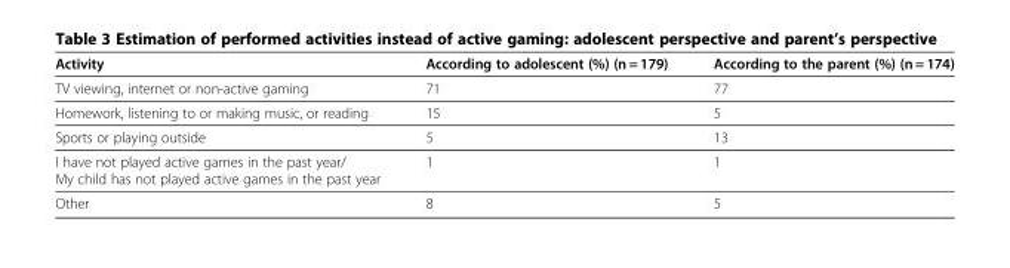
<table><thead><tr><td>Activity</td><td>According to adolescent (%) (n = 179)</td><td>According to the parent (%) (n = 174)</td></tr></thead><tbody><tr><td>TV viewing, internet or non-active gaming</td><td>71</td><td>77</td></tr><tr><td>Homework, listening to or making music, or reading</td><td>15</td><td>5</td></tr><tr><td>Sports or playing outside</td><td>5</td><td>13</td></tr><tr><td>I have not played active games in the past year/ My child has not played active games in the past year</td><td>1</td><td>1</td></tr><tr><td>Other</td><td>8</td><td>5</td></tr></tbody></table>